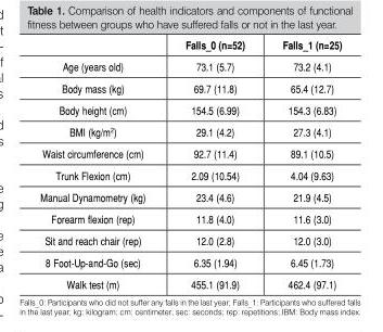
<table><thead><tr><td></td><td>Falls_0 (n=52)</td><td>Falls_1 (n=25)</td></tr></thead><tbody><tr><td>Age (years old)</td><td>73.1 (5.7)</td><td>73.2 (4.1)</td></tr><tr><td>Body mass (kg)</td><td>69.7 (11.8)</td><td>65.4 (12.7)</td></tr><tr><td>Body height (cm)</td><td>154.5 (6.99)</td><td>154.3 (6.83)</td></tr><tr><td>BMI (kg/m<sup>2</sup>)</td><td>29.1 (4.2)</td><td>27.3 (4.1)</td></tr><tr><td>Waist circumference (cm)</td><td>92.7 (11.4)</td><td>89.1 (10.5)</td></tr><tr><td>Trunk Flexion (cm)</td><td>2.09 (10.54)</td><td>4.04 (9.63)</td></tr><tr><td>Manual Dynamometry (kg)</td><td>23.4 (4.6)</td><td>21.9 (4.5)</td></tr><tr><td>Forearm flexion (rep)</td><td>11.8 (4.0)</td><td>11.6 (3.0)</td></tr><tr><td>Sit and reach chair (rep)</td><td>12.0 (2.8)</td><td>12.0 (3.0)</td></tr><tr><td>8 Foot-Up-and-Go (sec)</td><td>6.35 (1.94)</td><td>6.45 (1.73)</td></tr><tr><td>Walk test (m)</td><td>455.1 (91.9)</td><td>462.4 (97.1)</td></tr></tbody></table>